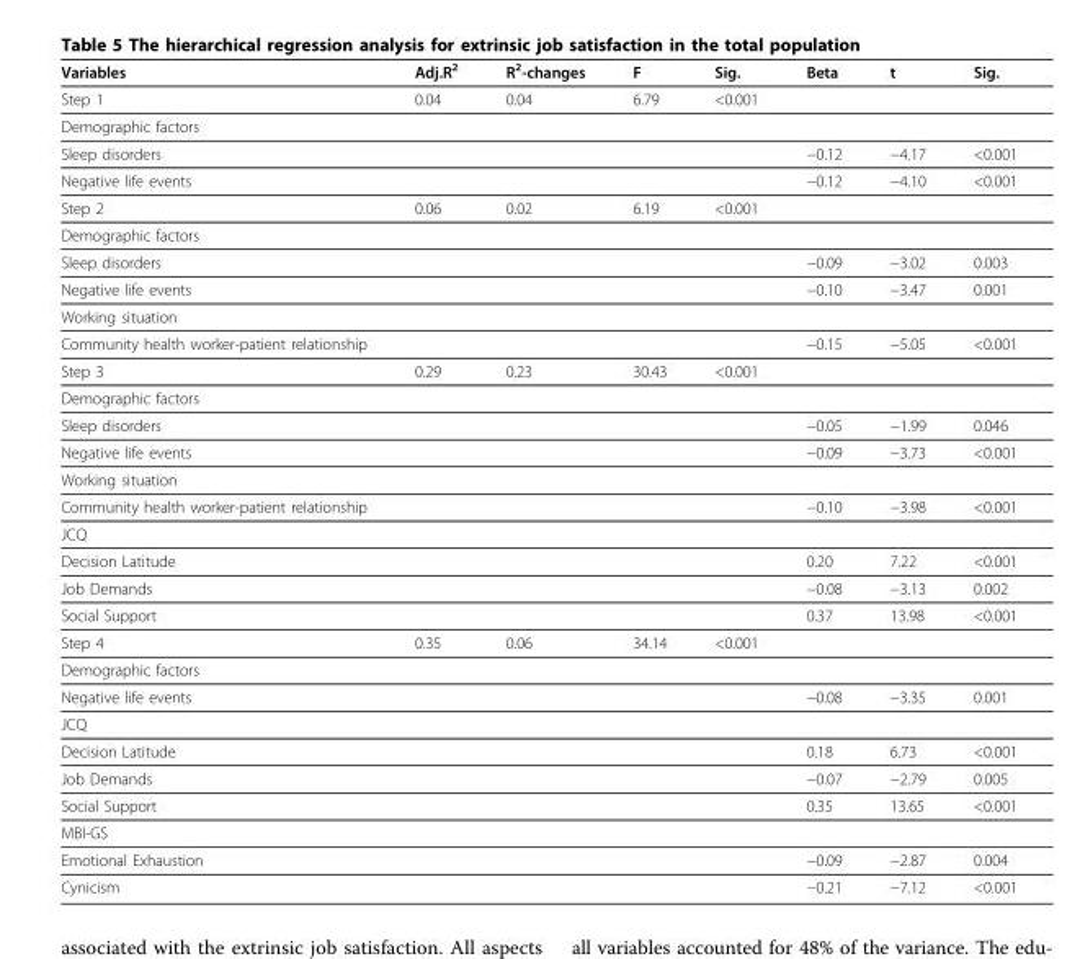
<table><thead><tr><td>Variables</td><td>Adj.R<sup>2</sup></td><td>R<sup>2</sup>-changes</td><td>F</td><td>Sig.</td><td>Beta</td><td>t</td><td>Sig.</td></tr></thead><tbody><tr><td>Step 1</td><td>0.04</td><td>0.04</td><td>6.79</td><td>&lt;0.001</td><td></td><td></td><td></td></tr><tr><td colspan="8">Demographic factors</td></tr><tr><td>Sleep disorders</td><td></td><td></td><td></td><td></td><td>−0.12</td><td>−4.17</td><td>&lt;0.001</td></tr><tr><td>Negative life events</td><td></td><td></td><td></td><td></td><td>−0.12</td><td>−4.10</td><td>&lt;0.001</td></tr><tr><td>Step 2</td><td>0.06</td><td>0.02</td><td>6.19</td><td>&lt;0.001</td><td></td><td></td><td></td></tr><tr><td colspan="8">Demographic factors</td></tr><tr><td>Sleep disorders</td><td></td><td></td><td></td><td></td><td>−0.09</td><td>−3.02</td><td>0.003</td></tr><tr><td>Negative life events</td><td></td><td></td><td></td><td></td><td>−0.10</td><td>−3.47</td><td>0.001</td></tr><tr><td colspan="8">Working situation</td></tr><tr><td>Community health worker-patient relationship</td><td></td><td></td><td></td><td></td><td>−0.15</td><td>−5.05</td><td>&lt;0.001</td></tr><tr><td>Step 3</td><td>0.29</td><td>0.23</td><td>30.43</td><td>&lt;0.001</td><td></td><td></td><td></td></tr><tr><td colspan="8">Demographic factors</td></tr><tr><td>Sleep disorders</td><td></td><td></td><td></td><td></td><td>−0.05</td><td>−1.99</td><td>0.046</td></tr><tr><td>Negative life events</td><td></td><td></td><td></td><td></td><td>−0.09</td><td>−3.73</td><td>&lt;0.001</td></tr><tr><td colspan="8">Working situation</td></tr><tr><td>Community health worker-patient relationship</td><td></td><td></td><td></td><td></td><td>−0.10</td><td>−3.98</td><td>&lt;0.001</td></tr><tr><td colspan="8">JCQ</td></tr><tr><td>Decision Latitude</td><td></td><td></td><td></td><td></td><td>0.20</td><td>7.22</td><td>&lt;0.001</td></tr><tr><td>Job Demands</td><td></td><td></td><td></td><td></td><td>−0.08</td><td>−3.13</td><td>0.002</td></tr><tr><td>Social Support</td><td></td><td></td><td></td><td></td><td>0.37</td><td>13.98</td><td>&lt;0.001</td></tr><tr><td>Step 4</td><td>0.35</td><td>0.06</td><td>34.14</td><td>&lt;0.001</td><td></td><td></td><td></td></tr><tr><td colspan="8">Demographic factors</td></tr><tr><td>Negative life events</td><td></td><td></td><td></td><td></td><td>−0.08</td><td>−3.35</td><td>0.001</td></tr><tr><td colspan="8">JCQ</td></tr><tr><td>Decision Latitude</td><td></td><td></td><td></td><td></td><td>0.18</td><td>6.73</td><td>&lt;0.001</td></tr><tr><td>Job Demands</td><td></td><td></td><td></td><td></td><td>−0.07</td><td>−2.79</td><td>0.005</td></tr><tr><td>Social Support</td><td></td><td></td><td></td><td></td><td>0.35</td><td>13.65</td><td>&lt;0.001</td></tr><tr><td colspan="8">MBI-GS</td></tr><tr><td>Emotional Exhaustion</td><td></td><td></td><td></td><td></td><td>−0.09</td><td>−2.87</td><td>0.004</td></tr><tr><td>Cynicism</td><td></td><td></td><td></td><td></td><td>−0.21</td><td>−7.12</td><td>&lt;0.001</td></tr></tbody></table>